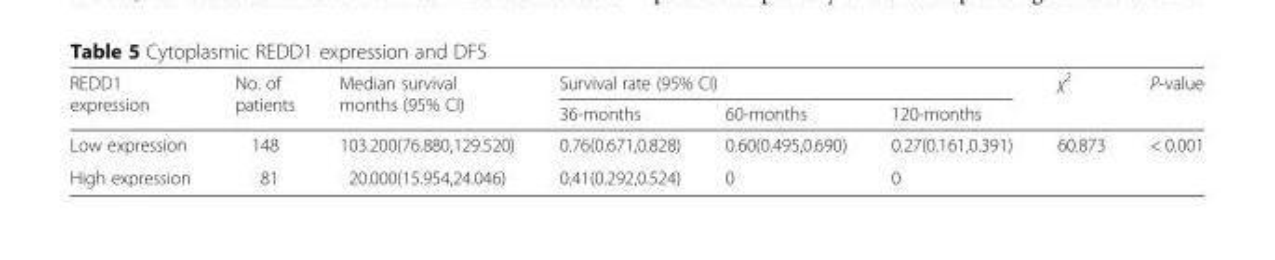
<table><thead><tr><td rowspan="2">REDD1 expression</td><td rowspan="2">No. of patients</td><td rowspan="2">Median survival months (95% CI)</td><td colspan="3">Survival rate (95% CI)</td><td rowspan="2">χ<sup>2</sup></td><td rowspan="2">P-value</td></tr><tr><td>36-months</td><td>60-months</td><td>120-months</td></tr></thead><tbody><tr><td>Low expression</td><td>148</td><td>103.200(76.880,129.520)</td><td>0.76(0.671,0.828)</td><td>0.60(0.495,0.690)</td><td>0.27(0.161,0.391)</td><td>60.873</td><td>&lt; 0.001</td></tr><tr><td>High expression</td><td>81</td><td>20.000(15.954,24.046)</td><td>0.41(0.292,0.524)</td><td>0</td><td>0</td><td></td><td></td></tr></tbody></table>